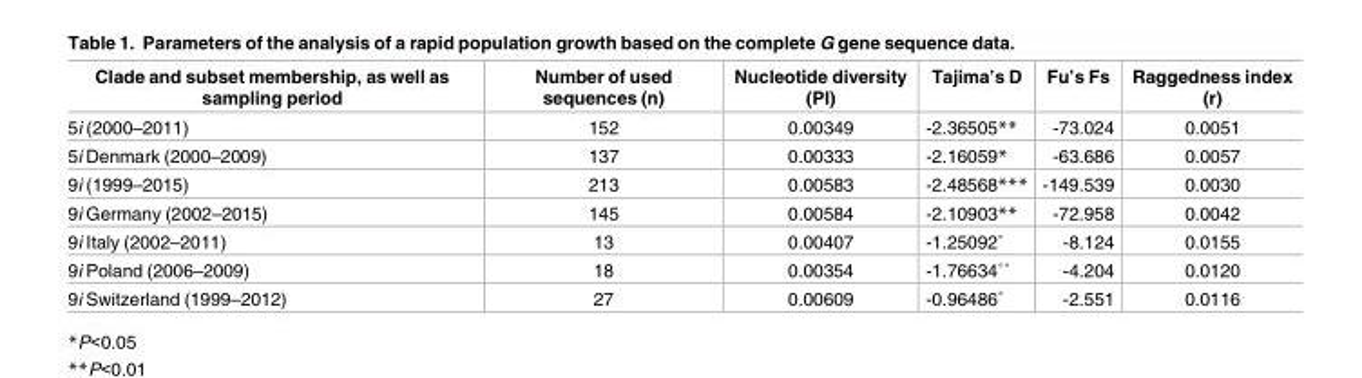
<table><thead><tr><td>Clade and subset membership, as well as sampling period</td><td>Number of used sequences (n)</td><td>Nucleotide diversity (PI)</td><td>Tajima’s D</td><td>Fu’s Fs</td><td>Raggedness index (r)</td></tr></thead><tbody><tr><td>5i (2000–2011)</td><td>152</td><td>0.00349</td><td>-2.36505**</td><td>-73.024</td><td>0.0051</td></tr><tr><td>5i Denmark (2000–2009)</td><td>137</td><td>0.00333</td><td>-2.16059*</td><td>-63.686</td><td>0.0057</td></tr><tr><td>9i (1999–2015)</td><td>213</td><td>0.00583</td><td>-2.48568***</td><td>-149.539</td><td>0.0030</td></tr><tr><td>9i Germany (2002–2015)</td><td>145</td><td>0.00584</td><td>-2.10903**</td><td>-72.958</td><td>0.0042</td></tr><tr><td>9i Italy (2002–2011)</td><td>13</td><td>0.00407</td><td>-1.25092˚</td><td>-8.124</td><td>0.0155</td></tr><tr><td>9i Poland (2006–2009)</td><td>18</td><td>0.00354</td><td>-1.76634˚˚</td><td>-4.204</td><td>0.0120</td></tr><tr><td>9i Switzerland (1999–2012)</td><td>27</td><td>0.00609</td><td>-0.96486˚</td><td>-2.551</td><td>0.0116</td></tr></tbody></table>